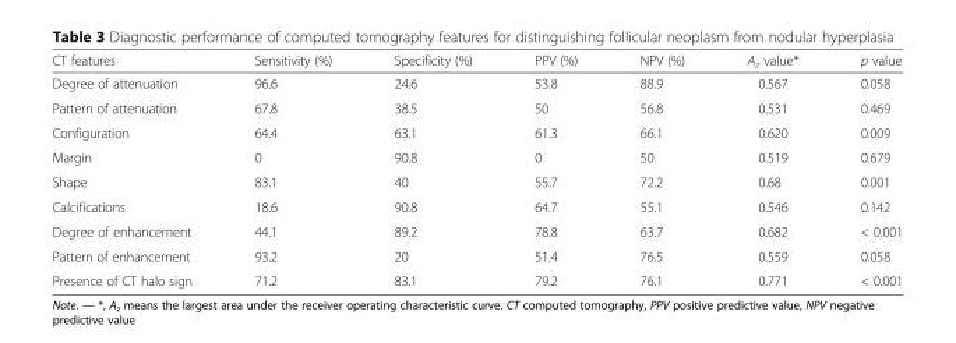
<table><thead><tr><td>CT features</td><td>Sensitivity (%)</td><td>Specificity (%)</td><td>PPV (%)</td><td>NPV (%)</td><td>A<sub>z</sub> value*</td><td>p value</td></tr></thead><tbody><tr><td>Degree of attenuation</td><td>96.6</td><td>24.6</td><td>53.8</td><td>88.9</td><td>0.567</td><td>0.058</td></tr><tr><td>Pattern of attenuation</td><td>67.8</td><td>38.5</td><td>50</td><td>56.8</td><td>0.531</td><td>0.469</td></tr><tr><td>Configuration</td><td>64.4</td><td>63.1</td><td>61.3</td><td>66.1</td><td>0.620</td><td>0.009</td></tr><tr><td>Margin</td><td>0</td><td>90.8</td><td>0</td><td>50</td><td>0.519</td><td>0.679</td></tr><tr><td>Shape</td><td>83.1</td><td>40</td><td>55.7</td><td>72.2</td><td>0.68</td><td>0.001</td></tr><tr><td>Calcifications</td><td>18.6</td><td>90.8</td><td>64.7</td><td>55.1</td><td>0.546</td><td>0.142</td></tr><tr><td>Degree of enhancement</td><td>44.1</td><td>89.2</td><td>78.8</td><td>63.7</td><td>0.682</td><td>&lt; 0.001</td></tr><tr><td>Pattern of enhancement</td><td>93.2</td><td>20</td><td>51.4</td><td>76.5</td><td>0.559</td><td>0.058</td></tr><tr><td>Presence of CT halo sign</td><td>71.2</td><td>83.1</td><td>79.2</td><td>76.1</td><td>0.771</td><td>&lt; 0.001</td></tr></tbody></table>